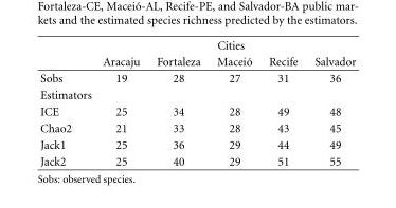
<table><thead><tr><td rowspan="2"></td><td colspan="5">Cities</td></tr><tr><td>Aracaju</td><td>Fortaleza</td><td>Macei´o</td><td>Recife</td><td>Salvador</td></tr></thead><tbody><tr><td>Sobs</td><td>19</td><td>28</td><td>27</td><td>31</td><td>36</td></tr><tr><td colspan="6">Estimators</td></tr><tr><td>ICE</td><td>25</td><td>34</td><td>28</td><td>49</td><td>48</td></tr><tr><td>Chao2</td><td>21</td><td>33</td><td>28</td><td>43</td><td>45</td></tr><tr><td>Jack1</td><td>25</td><td>36</td><td>29</td><td>44</td><td>49</td></tr><tr><td>Jack2</td><td>25</td><td>40</td><td>29</td><td>51</td><td>55</td></tr></tbody></table>